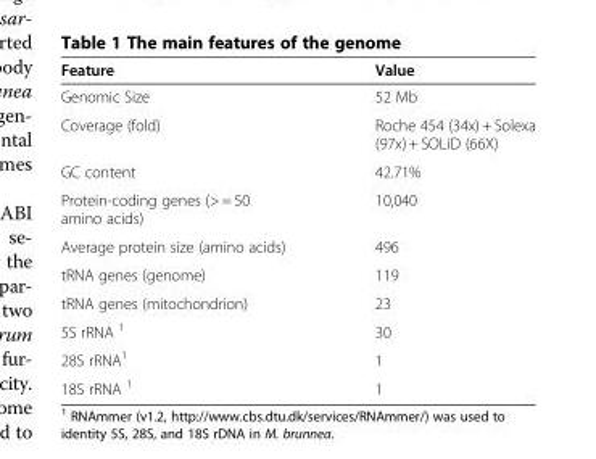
<table><thead><tr><td>Feature</td><td>Value</td></tr></thead><tbody><tr><td>Genomic Size</td><td>52 Mb</td></tr><tr><td>Coverage (fold)</td><td>Roche 454 (34x) + Solexa (97x) + SOLiD (66X)</td></tr><tr><td>GC content</td><td>42.71%</td></tr><tr><td>Protein-coding genes (&gt; = 50 amino acids)</td><td>10,040</td></tr><tr><td>Average protein size (amino acids)</td><td>496</td></tr><tr><td>tRNA genes (genome)</td><td>119</td></tr><tr><td>tRNA genes (mitochondrion)</td><td>23</td></tr><tr><td>5S rRNA <sup>1</sup></td><td>30</td></tr><tr><td>28S rRNA<sup>1</sup></td><td>1</td></tr><tr><td>18S rRNA <sup>1</sup></td><td>1</td></tr></tbody></table>